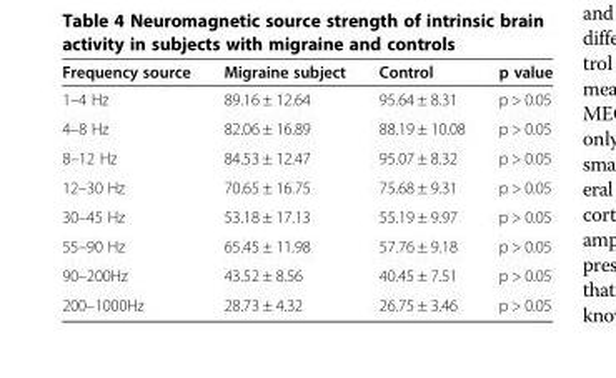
<table><thead><tr><td>Frequency source</td><td>Migraine subject</td><td>Control</td><td>p value</td></tr></thead><tbody><tr><td>1–4 Hz</td><td>89.16 ± 12.64</td><td>95.64 ± 8.31</td><td>p &gt; 0.05</td></tr><tr><td>4–8 Hz</td><td>82.06 ± 16.89</td><td>88.19 ± 10.08</td><td>p &gt; 0.05</td></tr><tr><td>8–12 Hz</td><td>84.53 ± 12.47</td><td>95.07 ± 8.32</td><td>p &gt; 0.05</td></tr><tr><td>12–30 Hz</td><td>70.65 ± 16.75</td><td>75.68 ± 9.31</td><td>p &gt; 0.05</td></tr><tr><td>30–45 Hz</td><td>53.18 ± 17.13</td><td>55.19 ± 9.97</td><td>p &gt; 0.05</td></tr><tr><td>55–90 Hz</td><td>65.45 ± 11.98</td><td>57.76 ± 9.18</td><td>p &gt; 0.05</td></tr><tr><td>90–200Hz</td><td>43.52 ± 8.56</td><td>40.45 ± 7.51</td><td>p &gt; 0.05</td></tr><tr><td>200–1000Hz</td><td>28.73 ± 4.32</td><td>26.75 ± 3.46</td><td>p &gt; 0.05</td></tr></tbody></table>